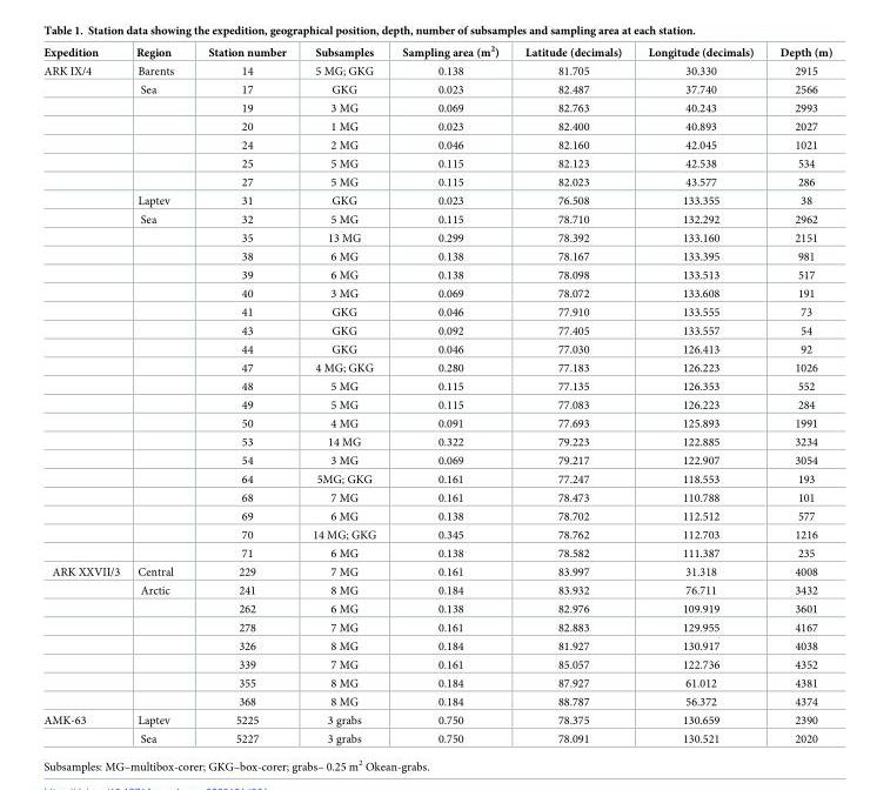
<table><thead><tr><td>Expedition</td><td>Region</td><td>Station number</td><td>Subsamples</td><td>Sampling area (m<sup>2</sup>)</td><td>Latitude (decimals)</td><td>Longitude (decimals)</td><td>Depth (m)</td></tr></thead><tbody><tr><td rowspan="27">ARK IX/4</td><td>Barents</td><td>14</td><td>5 MG; GKG</td><td>0.138</td><td>81.705</td><td>30.330</td><td>2915</td></tr><tr><td>Sea</td><td>17</td><td>GKG</td><td>0.023</td><td>82.487</td><td>37.740</td><td>2566</td></tr><tr><td></td><td>19</td><td>3 MG</td><td>0.069</td><td>82.763</td><td>40.243</td><td>2993</td></tr><tr><td></td><td>20</td><td>1 MG</td><td>0.023</td><td>82.400</td><td>40.893</td><td>2027</td></tr><tr><td></td><td>24</td><td>2 MG</td><td>0.046</td><td>82.160</td><td>42.045</td><td>1021</td></tr><tr><td></td><td>25</td><td>5 MG</td><td>0.115</td><td>82.123</td><td>42.538</td><td>534</td></tr><tr><td></td><td>27</td><td>5 MG</td><td>0.115</td><td>82.023</td><td>43.577</td><td>286</td></tr><tr><td>Laptev</td><td>31</td><td>GKG</td><td>0.023</td><td>76.508</td><td>133.355</td><td>38</td></tr><tr><td>Sea</td><td>32</td><td>5 MG</td><td>0.115</td><td>78.710</td><td>132.292</td><td>2962</td></tr><tr><td></td><td>35</td><td>13 MG</td><td>0.299</td><td>78.392</td><td>133.160</td><td>2151</td></tr><tr><td></td><td>38</td><td>6 MG</td><td>0.138</td><td>78.167</td><td>133.395</td><td>981</td></tr><tr><td></td><td>39</td><td>6 MG</td><td>0.138</td><td>78.098</td><td>133.513</td><td>517</td></tr><tr><td></td><td>40</td><td>3 MG</td><td>0.069</td><td>78.072</td><td>133.608</td><td>191</td></tr><tr><td></td><td>41</td><td>GKG</td><td>0.046</td><td>77.910</td><td>133.555</td><td>73</td></tr><tr><td></td><td>43</td><td>GKG</td><td>0.092</td><td>77.405</td><td>133.557</td><td>54</td></tr><tr><td></td><td>44</td><td>GKG</td><td>0.046</td><td>77.030</td><td>126.413</td><td>92</td></tr><tr><td></td><td>47</td><td>4 MG; GKG</td><td>0.280</td><td>77.183</td><td>126.223</td><td>1026</td></tr><tr><td></td><td>48</td><td>5 MG</td><td>0.115</td><td>77.135</td><td>126.353</td><td>552</td></tr><tr><td></td><td>49</td><td>5 MG</td><td>0.115</td><td>77.083</td><td>126.223</td><td>284</td></tr><tr><td></td><td>50</td><td>4 MG</td><td>0.091</td><td>77.693</td><td>125.893</td><td>1991</td></tr><tr><td></td><td>53</td><td>14 MG</td><td>0.322</td><td>79.223</td><td>122.885</td><td>3234</td></tr><tr><td></td><td>54</td><td>3 MG</td><td>0.069</td><td>79.217</td><td>122.907</td><td>3054</td></tr><tr><td></td><td>64</td><td>5MG; GKG</td><td>0.161</td><td>77.247</td><td>118.553</td><td>193</td></tr><tr><td></td><td>68</td><td>7 MG</td><td>0.161</td><td>78.473</td><td>110.788</td><td>101</td></tr><tr><td></td><td>69</td><td>6 MG</td><td>0.138</td><td>78.702</td><td>112.512</td><td>577</td></tr><tr><td></td><td>70</td><td>14 MG; GKG</td><td>0.345</td><td>78.762</td><td>112.703</td><td>1216</td></tr><tr><td></td><td>71</td><td>6 MG</td><td>0.138</td><td>78.582</td><td>111.387</td><td>235</td></tr><tr><td rowspan="8">ARK XXVII/3</td><td>Central</td><td>229</td><td>7 MG</td><td>0.161</td><td>83.997</td><td>31.318</td><td>4008</td></tr><tr><td>Arctic</td><td>241</td><td>8 MG</td><td>0.184</td><td>83.932</td><td>76.711</td><td>3432</td></tr><tr><td></td><td>262</td><td>6 MG</td><td>0.138</td><td>82.976</td><td>109.919</td><td>3601</td></tr><tr><td></td><td>278</td><td>7 MG</td><td>0.161</td><td>82.883</td><td>129.955</td><td>4167</td></tr><tr><td></td><td>326</td><td>8 MG</td><td>0.184</td><td>81.927</td><td>130.917</td><td>4038</td></tr><tr><td></td><td>339</td><td>7 MG</td><td>0.161</td><td>85.057</td><td>122.736</td><td>4352</td></tr><tr><td></td><td>355</td><td>8 MG</td><td>0.184</td><td>87.927</td><td>61.012</td><td>4381</td></tr><tr><td></td><td>368</td><td>8 MG</td><td>0.184</td><td>88.787</td><td>56.372</td><td>4374</td></tr><tr><td rowspan="2">AMK-63</td><td>Laptev</td><td>5225</td><td>3 grabs</td><td>0.750</td><td>78.375</td><td>130.659</td><td>2390</td></tr><tr><td>Sea</td><td>5227</td><td>3 grabs</td><td>0.750</td><td>78.091</td><td>130.521</td><td>2020</td></tr></tbody></table>